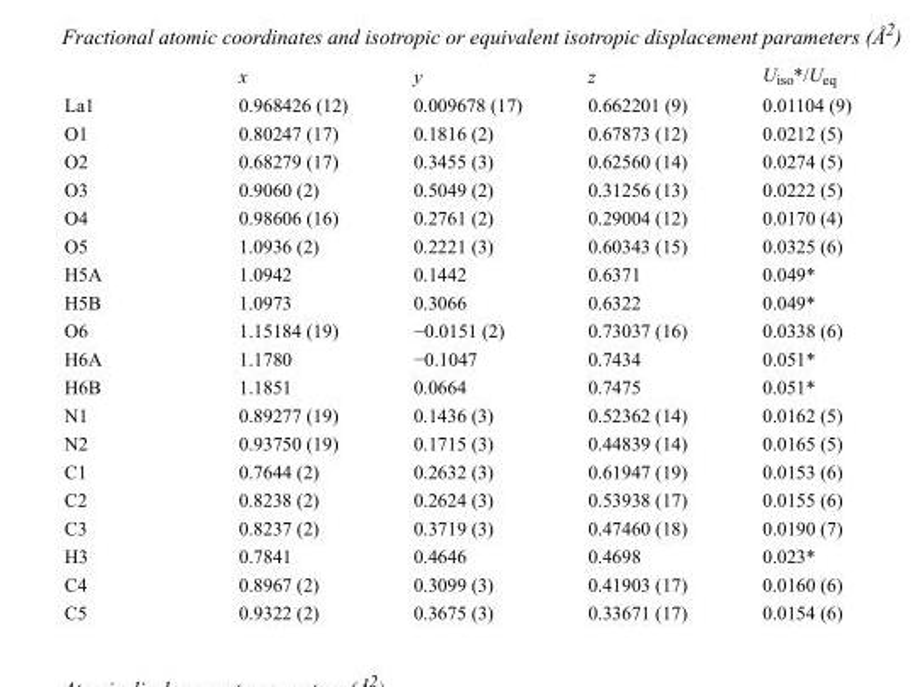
<table><thead><tr><td></td><td>x</td><td>y</td><td>z</td><td>U<sub>iso</sub>*/U<sub>eq</sub></td></tr></thead><tbody><tr><td>La1</td><td>0.968426 (12)</td><td>0.009678 (17)</td><td>0.662201 (9)</td><td>0.01104 (9)</td></tr><tr><td>O1</td><td>0.80247 (17)</td><td>0.1816 (2)</td><td>0.67873 (12)</td><td>0.0212 (5)</td></tr><tr><td>O2</td><td>0.68279 (17)</td><td>0.3455 (3)</td><td>0.62560 (14)</td><td>0.0274 (5)</td></tr><tr><td>O3</td><td>0.9060 (2)</td><td>0.5049 (2)</td><td>0.31256 (13)</td><td>0.0222 (5)</td></tr><tr><td>O4</td><td>0.98606 (16)</td><td>0.2761 (2)</td><td>0.29004 (12)</td><td>0.0170 (4)</td></tr><tr><td>O5</td><td>1.0936 (2)</td><td>0.2221 (3)</td><td>0.60343 (15)</td><td>0.0325 (6)</td></tr><tr><td>H5A</td><td>1.0942</td><td>0.1442</td><td>0.6371</td><td>0.049*</td></tr><tr><td>H5B</td><td>1.0973</td><td>0.3066</td><td>0.6322</td><td>0.049*</td></tr><tr><td>O6</td><td>1.15184 (19)</td><td>−0.0151 (2)</td><td>0.73037 (16)</td><td>0.0338 (6)</td></tr><tr><td>H6A</td><td>1.1780</td><td>−0.1047</td><td>0.7434</td><td>0.051*</td></tr><tr><td>H6B</td><td>1.1851</td><td>0.0664</td><td>0.7475</td><td>0.051*</td></tr><tr><td>N1</td><td>0.89277 (19)</td><td>0.1436 (3)</td><td>0.52362 (14)</td><td>0.0162 (5)</td></tr><tr><td>N2</td><td>0.93750 (19)</td><td>0.1715 (3)</td><td>0.44839 (14)</td><td>0.0165 (5)</td></tr><tr><td>C1</td><td>0.7644 (2)</td><td>0.2632 (3)</td><td>0.61947 (19)</td><td>0.0153 (6)</td></tr><tr><td>C2</td><td>0.8238 (2)</td><td>0.2624 (3)</td><td>0.53938 (17)</td><td>0.0155 (6)</td></tr><tr><td>C3</td><td>0.8237 (2)</td><td>0.3719 (3)</td><td>0.47460 (18)</td><td>0.0190 (7)</td></tr><tr><td>H3</td><td>0.7841</td><td>0.4646</td><td>0.4698</td><td>0.023*</td></tr><tr><td>C4</td><td>0.8967 (2)</td><td>0.3099 (3)</td><td>0.41903 (17)</td><td>0.0160 (6)</td></tr><tr><td>C5</td><td>0.9322 (2)</td><td>0.3675 (3)</td><td>0.33671 (17)</td><td>0.0154 (6)</td></tr></tbody></table>